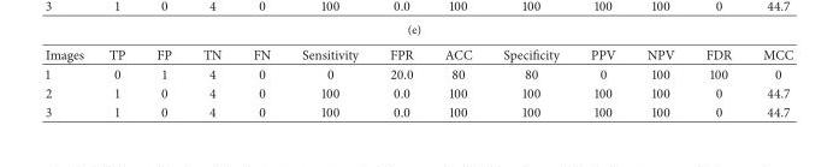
<table><thead><tr><td>Images</td><td>TP</td><td>FP</td><td>TN</td><td>FN</td><td>Sensitivity</td><td>FPR</td><td>ACC</td><td>Specificity</td><td>PPV</td><td>NPV</td><td>FDR</td><td>MCC</td></tr></thead><tbody><tr><td>1</td><td>0</td><td>1</td><td>4</td><td>0</td><td>0</td><td>20.0</td><td>80</td><td>80</td><td>0</td><td>100</td><td>100</td><td>0</td></tr><tr><td>2</td><td>1</td><td>0</td><td>4</td><td>0</td><td>100</td><td>0.0</td><td>100</td><td>100</td><td>100</td><td>100</td><td>0</td><td>44.7</td></tr><tr><td>3</td><td>1</td><td>0</td><td>4</td><td>0</td><td>100</td><td>0.0</td><td>100</td><td>100</td><td>100</td><td>100</td><td>0</td><td>44.7</td></tr></tbody></table>